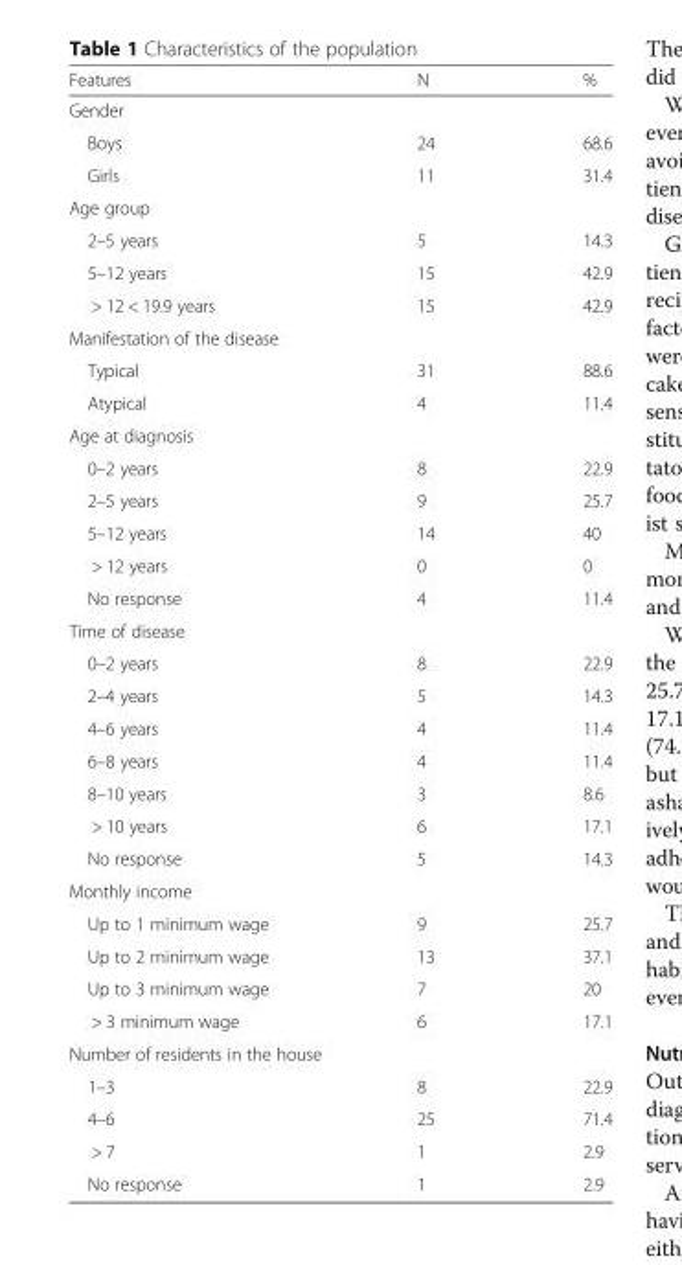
<table><thead><tr><td>Features</td><td>N</td><td>%</td></tr></thead><tbody><tr><td colspan="3">Gender</td></tr><tr><td>Boys</td><td>24</td><td>68.6</td></tr><tr><td>Girls</td><td>11</td><td>31.4</td></tr><tr><td colspan="3">Age group</td></tr><tr><td>2–5 years</td><td>5</td><td>14.3</td></tr><tr><td>5–12 years</td><td>15</td><td>42.9</td></tr><tr><td>&gt; 12 &lt; 19.9 years</td><td>15</td><td>42.9</td></tr><tr><td colspan="3">Manifestation of the disease</td></tr><tr><td>Typical</td><td>31</td><td>88.6</td></tr><tr><td>Atypical</td><td>4</td><td>11.4</td></tr><tr><td colspan="3">Age at diagnosis</td></tr><tr><td>0–2 years</td><td>8</td><td>22.9</td></tr><tr><td>2–5 years</td><td>9</td><td>25.7</td></tr><tr><td>5–12 years</td><td>14</td><td>40</td></tr><tr><td>&gt; 12 years</td><td>0</td><td>0</td></tr><tr><td>No response</td><td>4</td><td>11.4</td></tr><tr><td colspan="3">Time of disease</td></tr><tr><td>0–2 years</td><td>8</td><td>22.9</td></tr><tr><td>2–4 years</td><td>5</td><td>14.3</td></tr><tr><td>4–6 years</td><td>4</td><td>11.4</td></tr><tr><td>6–8 years</td><td>4</td><td>11.4</td></tr><tr><td>8–10 years</td><td>3</td><td>8.6</td></tr><tr><td>&gt; 10 years</td><td>6</td><td>17.1</td></tr><tr><td>No response</td><td>5</td><td>14.3</td></tr><tr><td colspan="3">Monthly income</td></tr><tr><td>Up to 1 minimum wage</td><td>9</td><td>25.7</td></tr><tr><td>Up to 2 minimum wage</td><td>13</td><td>37.1</td></tr><tr><td>Up to 3 minimum wage</td><td>7</td><td>20</td></tr><tr><td>&gt; 3 minimum wage</td><td>6</td><td>17.1</td></tr><tr><td colspan="3">Number of residents in the house</td></tr><tr><td>1–3</td><td>8</td><td>22.9</td></tr><tr><td>4–6</td><td>25</td><td>71.4</td></tr><tr><td>&gt; 7</td><td>1</td><td>2.9</td></tr><tr><td>No response</td><td>1</td><td>2.9</td></tr></tbody></table>